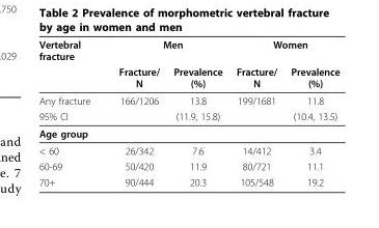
<table><thead><tr><td rowspan="2">Vertebral fracture</td><td colspan="2">Men</td><td colspan="2">Women</td></tr><tr><td>Fracture/ N</td><td>Prevalence (%)</td><td>Fracture/ N</td><td>Prevalence (%)</td></tr></thead><tbody><tr><td>Any fracture</td><td>166/1206</td><td>13.8</td><td>199/1681</td><td>11.8</td></tr><tr><td>95% CI</td><td></td><td>(11.9, 15.8)</td><td></td><td>(10.4, 13.5)</td></tr><tr><td colspan="5">Age group</td></tr><tr><td>&lt; 60</td><td>26/342</td><td>7.6</td><td>14/412</td><td>3.4</td></tr><tr><td>60-69</td><td>50/420</td><td>11.9</td><td>80/721</td><td>11.1</td></tr><tr><td>70+</td><td>90/444</td><td>20.3</td><td>105/548</td><td>19.2</td></tr></tbody></table>